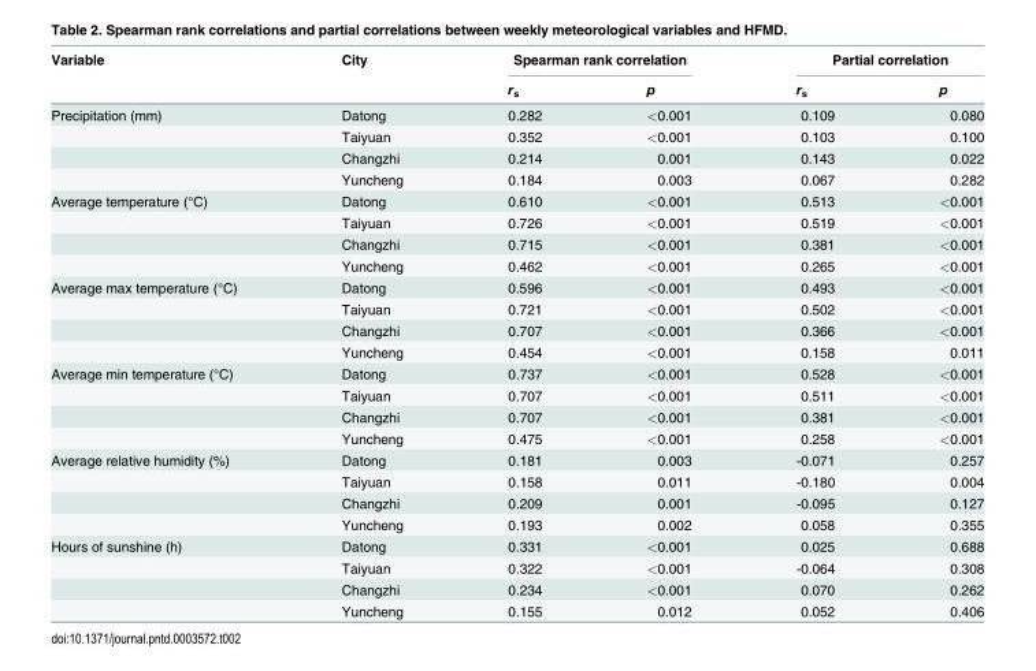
<table><thead><tr><td rowspan="2">Variable</td><td rowspan="2">City</td><td colspan="2">Spearman rank correlation</td><td colspan="2">Partial correlation</td></tr><tr><td>r<sub>s</sub></td><td>p</td><td>r<sub>s</sub></td><td>p</td></tr></thead><tbody><tr><td rowspan="4">Precipitation (mm)</td><td>Datong</td><td>0.282</td><td>&lt;0.001</td><td>0.109</td><td>0.080</td></tr><tr><td>Taiyuan</td><td>0.352</td><td>&lt;0.001</td><td>0.103</td><td>0.100</td></tr><tr><td>Changzhi</td><td>0.214</td><td>0.001</td><td>0.143</td><td>0.022</td></tr><tr><td>Yuncheng</td><td>0.184</td><td>0.003</td><td>0.067</td><td>0.282</td></tr><tr><td rowspan="4">Average temperature (°C)</td><td>Datong</td><td>0.610</td><td>&lt;0.001</td><td>0.513</td><td>&lt;0.001</td></tr><tr><td>Taiyuan</td><td>0.726</td><td>&lt;0.001</td><td>0.519</td><td>&lt;0.001</td></tr><tr><td>Changzhi</td><td>0.715</td><td>&lt;0.001</td><td>0.381</td><td>&lt;0.001</td></tr><tr><td>Yuncheng</td><td>0.462</td><td>&lt;0.001</td><td>0.265</td><td>&lt;0.001</td></tr><tr><td rowspan="4">Average max temperature (°C)</td><td>Datong</td><td>0.596</td><td>&lt;0.001</td><td>0.493</td><td>&lt;0.001</td></tr><tr><td>Taiyuan</td><td>0.721</td><td>&lt;0.001</td><td>0.502</td><td>&lt;0.001</td></tr><tr><td>Changzhi</td><td>0.707</td><td>&lt;0.001</td><td>0.366</td><td>&lt;0.001</td></tr><tr><td>Yuncheng</td><td>0.454</td><td>&lt;0.001</td><td>0.158</td><td>0.011</td></tr><tr><td rowspan="4">Average min temperature (°C)</td><td>Datong</td><td>0.737</td><td>&lt;0.001</td><td>0.528</td><td>&lt;0.001</td></tr><tr><td>Taiyuan</td><td>0.707</td><td>&lt;0.001</td><td>0.511</td><td>&lt;0.001</td></tr><tr><td>Changzhi</td><td>0.707</td><td>&lt;0.001</td><td>0.381</td><td>&lt;0.001</td></tr><tr><td>Yuncheng</td><td>0.475</td><td>&lt;0.001</td><td>0.258</td><td>&lt;0.001</td></tr><tr><td rowspan="4">Average relative humidity (%)</td><td>Datong</td><td>0.181</td><td>0.003</td><td>-0.071</td><td>0.257</td></tr><tr><td>Taiyuan</td><td>0.158</td><td>0.011</td><td>-0.180</td><td>0.004</td></tr><tr><td>Changzhi</td><td>0.209</td><td>0.001</td><td>-0.095</td><td>0.127</td></tr><tr><td>Yuncheng</td><td>0.193</td><td>0.002</td><td>0.058</td><td>0.355</td></tr><tr><td rowspan="4">Hours of sunshine (h)</td><td>Datong</td><td>0.331</td><td>&lt;0.001</td><td>0.025</td><td>0.688</td></tr><tr><td>Taiyuan</td><td>0.322</td><td>&lt;0.001</td><td>-0.064</td><td>0.308</td></tr><tr><td>Changzhi</td><td>0.234</td><td>&lt;0.001</td><td>0.070</td><td>0.262</td></tr><tr><td>Yuncheng</td><td>0.155</td><td>0.012</td><td>0.052</td><td>0.406</td></tr></tbody></table>